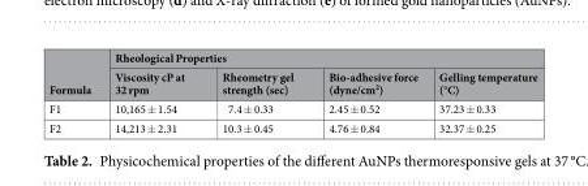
<table><thead><tr><td rowspan="2">Formula</td><td colspan="4">Rheological Properties</td></tr><tr><td>Viscosity cP at 32 rpm</td><td>Rheometry gel strength (sec)</td><td>Bio-adhesive force (dyne/cm<sup>2</sup>)</td><td>Gelling temperature (°C)</td></tr></thead><tbody><tr><td>F1</td><td>10,165 ± 1.54</td><td>7.4 ± 0.33</td><td>2.45 ± 0.52</td><td>37.23 ± 0.33</td></tr><tr><td>F2</td><td>14,213 ± 2.31</td><td>10.3 ± 0.45</td><td>4.76 ± 0.84</td><td>32.37 ± 0.25</td></tr></tbody></table>